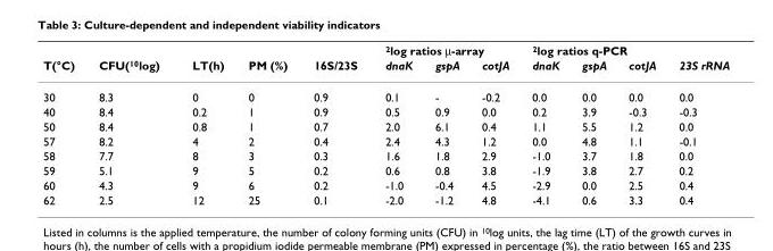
<table><thead><tr><td rowspan="2">T(°C)</td><td rowspan="2">CFU(<sup>10</sup>log)</td><td rowspan="2">LT(h)</td><td rowspan="2">PM (%)</td><td rowspan="2">16S/23S</td><td colspan="3"><sup>2</sup>log ratios μ-array</td><td colspan="4"><sup>2</sup>log ratios q-PCR</td></tr><tr><td>dnaK</td><td>gspA</td><td>cotJA</td><td>dnaK</td><td>gspA</td><td>cotJA</td><td>23S rRNA</td></tr></thead><tbody><tr><td>30</td><td>8.3</td><td>0</td><td>0</td><td>0.9</td><td>0.1</td><td>-</td><td>-0.2</td><td>0.0</td><td>0.0</td><td>0.0</td><td>0.0</td></tr><tr><td>40</td><td>8.4</td><td>0.2</td><td>1</td><td>0.9</td><td>0.5</td><td>0.9</td><td>0.0</td><td>0.2</td><td>3.9</td><td>-0.3</td><td>-0.3</td></tr><tr><td>50</td><td>8.4</td><td>0.8</td><td>1</td><td>0.7</td><td>2.0</td><td>6.1</td><td>0.4</td><td>1.1</td><td>5.5</td><td>1.2</td><td>0.0</td></tr><tr><td>57</td><td>8.2</td><td>4</td><td>2</td><td>0.4</td><td>2.4</td><td>4.3</td><td>1.2</td><td>0.0</td><td>4.8</td><td>1.1</td><td>-0.1</td></tr><tr><td>58</td><td>7.7</td><td>8</td><td>3</td><td>0.3</td><td>1.6</td><td>1.8</td><td>2.9</td><td>-1.0</td><td>3.7</td><td>1.8</td><td>0.0</td></tr><tr><td>59</td><td>5.1</td><td>9</td><td>5</td><td>0.2</td><td>0.6</td><td>0.8</td><td>3.8</td><td>-1.9</td><td>3.8</td><td>2.7</td><td>0.2</td></tr><tr><td>60</td><td>4.3</td><td>9</td><td>6</td><td>0.2</td><td>-1.0</td><td>-0.4</td><td>4.5</td><td>-2.9</td><td>0.0</td><td>2.5</td><td>0.4</td></tr><tr><td>62</td><td>2.5</td><td>12</td><td>25</td><td>0.1</td><td>-2.0</td><td>-1.2</td><td>4.8</td><td>-4.1</td><td>0.6</td><td>3.3</td><td>0.4</td></tr></tbody></table>